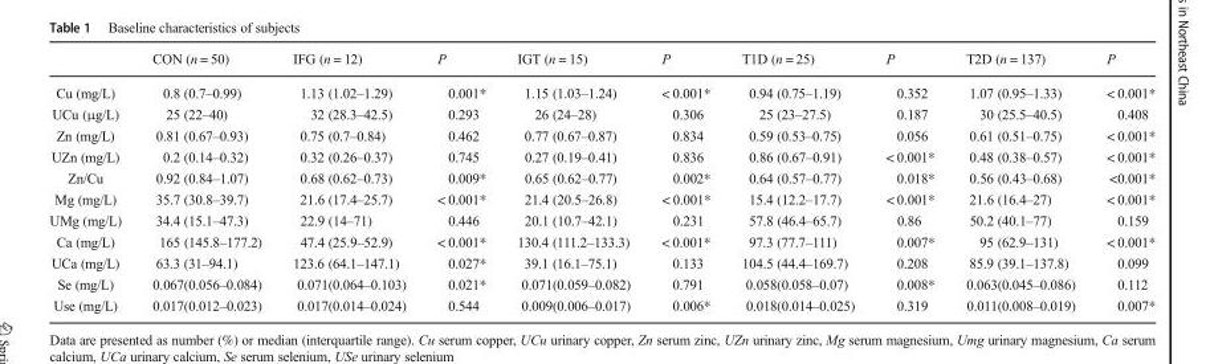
<table><thead><tr><td></td><td>CON (n = 50)</td><td>IFG (n = 12)</td><td>P</td><td>IGT (n = 15)</td><td>P</td><td>T1D (n = 25)</td><td>P</td><td>T2D (n = 137)</td><td>P</td></tr></thead><tbody><tr><td>Cu (mg/L)</td><td>0.8 (0.7–0.99)</td><td>1.13 (1.02–1.29)</td><td>0.001*</td><td>1.15 (1.03–1.24)</td><td>&lt; 0.001*</td><td>0.94 (0.75–1.19)</td><td>0.352</td><td>1.07 (0.95–1.33)</td><td>&lt; 0.001*</td></tr><tr><td>UCu (μg/L)</td><td>25 (22–40)</td><td>32 (28.3–42.5)</td><td>0.293</td><td>26 (24–28)</td><td>0.306</td><td>25 (23–27.5)</td><td>0.187</td><td>30 (25.5–40.5)</td><td>0.408</td></tr><tr><td>Zn (mg/L)</td><td>0.81 (0.67–0.93)</td><td>0.75 (0.7–0.84)</td><td>0.462</td><td>0.77 (0.67–0.87)</td><td>0.834</td><td>0.59 (0.53–0.75)</td><td>0.056</td><td>0.61 (0.51–0.75)</td><td>&lt; 0.001*</td></tr><tr><td>UZn (mg/L)</td><td>0.2 (0.14–0.32)</td><td>0.32 (0.26–0.37)</td><td>0.745</td><td>0.27 (0.19–0.41)</td><td>0.836</td><td>0.86 (0.67–0.91)</td><td>&lt; 0.001*</td><td>0.48 (0.38–0.57)</td><td>&lt; 0.001*</td></tr><tr><td>Zn/Cu</td><td>0.92 (0.84–1.07)</td><td>0.68 (0.62–0.73)</td><td>0.009*</td><td>0.65 (0.62–0.77)</td><td>0.002*</td><td>0.64 (0.57–0.77)</td><td>0.018*</td><td>0.56 (0.43–0.68)</td><td>&lt;0.001*</td></tr><tr><td>Mg (mg/L)</td><td>35.7 (30.8–39.7)</td><td>21.6 (17.4–25.7)</td><td>&lt; 0.001*</td><td>21.4 (20.5–26.8)</td><td>&lt; 0.001*</td><td>15.4 (12.2–17.7)</td><td>&lt; 0.001*</td><td>21.6 (16.4–27)</td><td>&lt; 0.001*</td></tr><tr><td>UMg (mg/L)</td><td>34.4 (15.1–47.3)</td><td>22.9 (14–71)</td><td>0.446</td><td>20.1 (10.7–42.1)</td><td>0.231</td><td>57.8 (46.4–65.7)</td><td>0.86</td><td>50.2 (40.1–77)</td><td>0.159</td></tr><tr><td>Ca (mg/L)</td><td>165 (145.8–177.2)</td><td>47.4 (25.9–52.9)</td><td>&lt; 0.001*</td><td>130.4 (111.2–133.3)</td><td>&lt; 0.001*</td><td>97.3 (77.7–111)</td><td>0.007*</td><td>95 (62.9–131)</td><td>&lt; 0.001*</td></tr><tr><td>UCa (mg/L)</td><td>63.3 (31–94.1)</td><td>123.6 (64.1–147.1)</td><td>0.027*</td><td>39.1 (16.1–75.1)</td><td>0.133</td><td>104.5 (44.4–169.7)</td><td>0.208</td><td>85.9 (39.1–137.8)</td><td>0.099</td></tr><tr><td>Se (mg/L)</td><td>0.067(0.056–0.084)</td><td>0.071(0.064–0.103)</td><td>0.021*</td><td>0.071(0.059–0.082)</td><td>0.791</td><td>0.058(0.058–0.07)</td><td>0.008*</td><td>0.063(0.045–0.086)</td><td>0.112</td></tr><tr><td>Use (mg/L)</td><td>0.017(0.012–0.023)</td><td>0.017(0.014–0.024)</td><td>0.544</td><td>0.009(0.006–0.017)</td><td>0.006*</td><td>0.018(0.014–0.025)</td><td>0.319</td><td>0.011(0.008–0.019)</td><td>0.007*</td></tr></tbody></table>